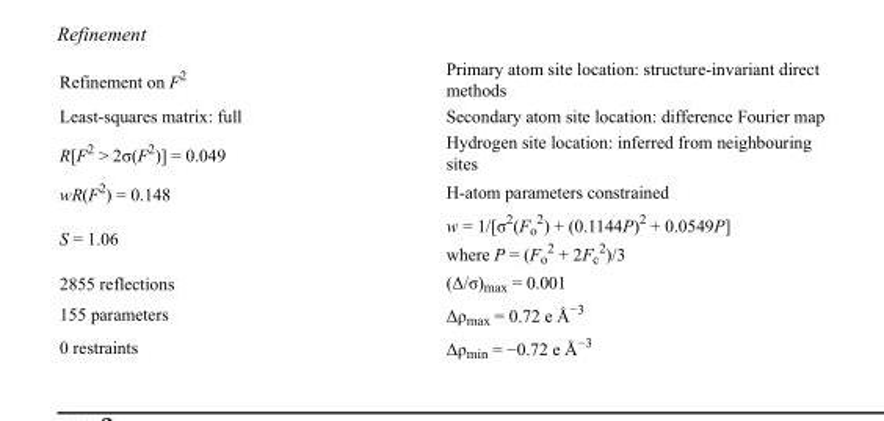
<table><tbody><tr><td>Refinement on F<sup>2</sup></td><td>Primary atom site location: structure-invariant direct methods</td></tr><tr><td>Least-squares matrix: full</td><td>Secondary atom site location: difference Fourier map</td></tr><tr><td>R[F<sup>2</sup> &gt; 2σ(F<sup>2</sup>)] = 0.049</td><td>Hydrogen site location: inferred from neighbouring sites</td></tr><tr><td>wR(F<sup>2</sup>) = 0.148</td><td>H-atom parameters constrained</td></tr><tr><td>S = 1.06</td><td>w = 1/[σ<sup>2</sup>(F<sub>o</sub> <sup>2</sup>) + (0.1144P)<sup>2</sup> + 0.0549P] where P = (F<sub>o</sub> <sup>2</sup> + 2F<sub>c</sub> <sup>2</sup>)/3</td></tr><tr><td>2855 reflections</td><td>(Δ/σ)<sub>max</sub> = 0.001</td></tr><tr><td>155 parameters</td><td>Δρ<sub>max</sub> = 0.72 e Å<sup>−3</sup></td></tr><tr><td>0 restraints</td><td>Δρ<sub>min</sub> = −0.72 e Å<sup>−3</sup></td></tr></tbody></table>